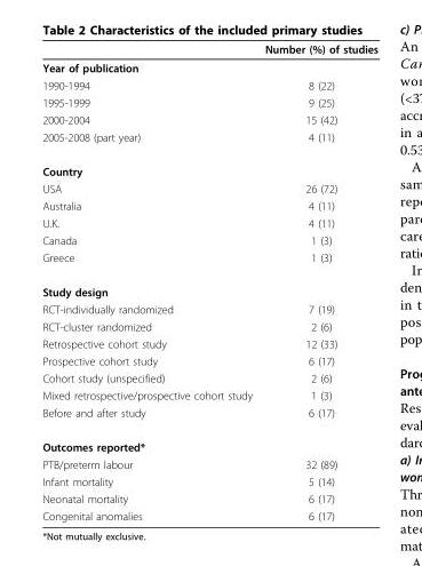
<table><thead><tr><td></td><td>Number (%) of studies</td></tr></thead><tbody><tr><td colspan="2">Year of publication</td></tr><tr><td>1990-1994</td><td>8 (22)</td></tr><tr><td>1995-1999</td><td>9 (25)</td></tr><tr><td>2000-2004</td><td>15 (42)</td></tr><tr><td>2005-2008 (part year)</td><td>4 (11)</td></tr><tr><td colspan="2">Country</td></tr><tr><td>USA</td><td>26 (72)</td></tr><tr><td>Australia</td><td>4 (11)</td></tr><tr><td>U.K.</td><td>4 (11)</td></tr><tr><td>Canada</td><td>1 (3)</td></tr><tr><td>Greece</td><td>1 (3)</td></tr><tr><td colspan="2">Study design</td></tr><tr><td>RCT-individually randomized</td><td>7 (19)</td></tr><tr><td>RCT-cluster randomized</td><td>2 (6)</td></tr><tr><td>Retrospective cohort study</td><td>12 (33)</td></tr><tr><td>Prospective cohort study</td><td>6 (17)</td></tr><tr><td>Cohort study (unspecified)</td><td>2 (6)</td></tr><tr><td>Mixed retrospective/prospective cohort study</td><td>1 (3)</td></tr><tr><td>Before and after study</td><td>6 (17)</td></tr><tr><td colspan="2">Outcomes reported*</td></tr><tr><td>PTB/preterm labour</td><td>32 (89)</td></tr><tr><td>Infant mortality</td><td>5 (14)</td></tr><tr><td>Neonatal mortality</td><td>6 (17)</td></tr><tr><td>Congenital anomalies</td><td>6 (17)</td></tr></tbody></table>